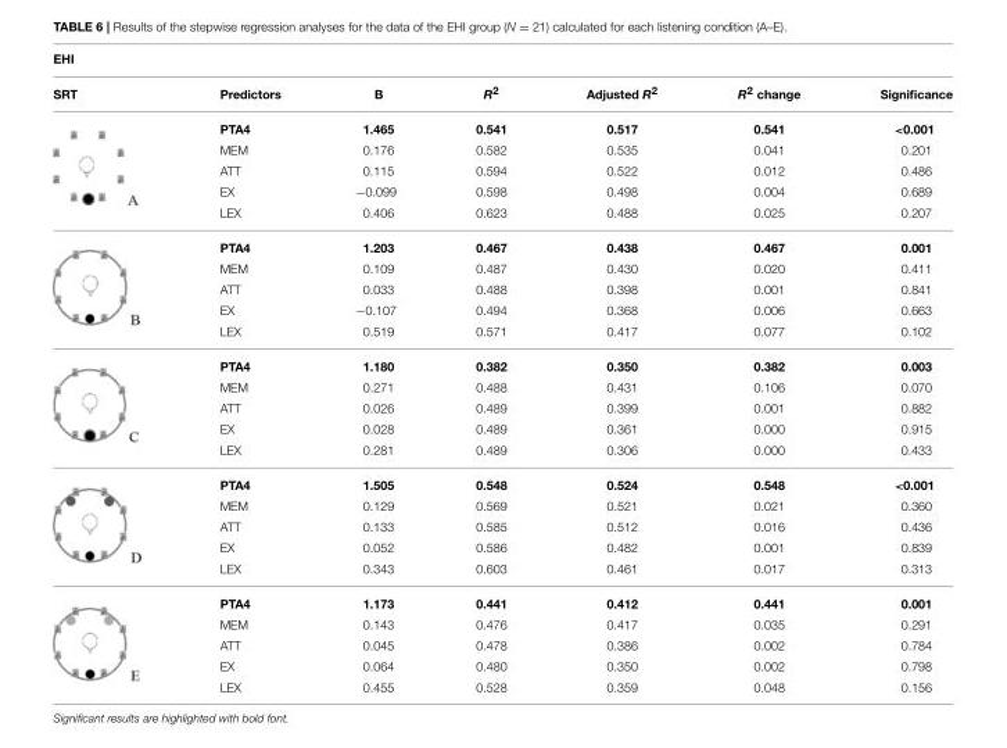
<table><thead><tr><td colspan="7">EHI</td></tr><tr><td>SRT</td><td>Predictors</td><td>B</td><td>R<sup>2</sup></td><td>Adjusted R<sup>2</sup></td><td>R<sup>2</sup> change</td><td>Significance</td></tr></thead><tbody><tr><td></td><td>PTA4</td><td>1.465</td><td>0.541</td><td>0.517</td><td>0.541</td><td>&lt;0.001</td></tr><tr><td></td><td>MEM</td><td>0.176</td><td>0.582</td><td>0.535</td><td>0.041</td><td>0.201</td></tr><tr><td></td><td>ATT</td><td>0.115</td><td>0.594</td><td>0.522</td><td>0.012</td><td>0.486</td></tr><tr><td></td><td>EX</td><td>−0.099</td><td>0.598</td><td>0.498</td><td>0.004</td><td>0.689</td></tr><tr><td></td><td>LEX</td><td>0.406</td><td>0.623</td><td>0.488</td><td>0.025</td><td>0.207</td></tr><tr><td></td><td>PTA4</td><td>1.203</td><td>0.467</td><td>0.438</td><td>0.467</td><td>0.001</td></tr><tr><td></td><td>MEM</td><td>0.109</td><td>0.487</td><td>0.430</td><td>0.020</td><td>0.411</td></tr><tr><td></td><td>ATT</td><td>0.033</td><td>0.488</td><td>0.398</td><td>0.001</td><td>0.841</td></tr><tr><td></td><td>EX</td><td>−0.107</td><td>0.494</td><td>0.368</td><td>0.006</td><td>0.663</td></tr><tr><td></td><td>LEX</td><td>0.519</td><td>0.571</td><td>0.417</td><td>0.077</td><td>0.102</td></tr><tr><td></td><td>PTA4</td><td>1.180</td><td>0.382</td><td>0.350</td><td>0.382</td><td>0.003</td></tr><tr><td></td><td>MEM</td><td>0.271</td><td>0.488</td><td>0.431</td><td>0.106</td><td>0.070</td></tr><tr><td></td><td>ATT</td><td>0.026</td><td>0.489</td><td>0.399</td><td>0.001</td><td>0.882</td></tr><tr><td></td><td>EX</td><td>0.028</td><td>0.489</td><td>0.361</td><td>0.000</td><td>0.915</td></tr><tr><td></td><td>LEX</td><td>0.281</td><td>0.489</td><td>0.306</td><td>0.000</td><td>0.433</td></tr><tr><td></td><td>PTA4</td><td>1.505</td><td>0.548</td><td>0.524</td><td>0.548</td><td>&lt;0.001</td></tr><tr><td></td><td>MEM</td><td>0.129</td><td>0.569</td><td>0.521</td><td>0.021</td><td>0.360</td></tr><tr><td></td><td>ATT</td><td>0.133</td><td>0.585</td><td>0.512</td><td>0.016</td><td>0.436</td></tr><tr><td></td><td>EX</td><td>0.052</td><td>0.586</td><td>0.482</td><td>0.001</td><td>0.839</td></tr><tr><td></td><td>LEX</td><td>0.343</td><td>0.603</td><td>0.461</td><td>0.017</td><td>0.313</td></tr><tr><td></td><td>PTA4</td><td>1.173</td><td>0.441</td><td>0.412</td><td>0.441</td><td>0.001</td></tr><tr><td></td><td>MEM</td><td>0.143</td><td>0.476</td><td>0.417</td><td>0.035</td><td>0.291</td></tr><tr><td></td><td>ATT</td><td>0.045</td><td>0.478</td><td>0.386</td><td>0.002</td><td>0.784</td></tr><tr><td></td><td>EX</td><td>0.064</td><td>0.480</td><td>0.350</td><td>0.002</td><td>0.798</td></tr><tr><td></td><td>LEX</td><td>0.455</td><td>0.528</td><td>0.359</td><td>0.048</td><td>0.156</td></tr></tbody></table>